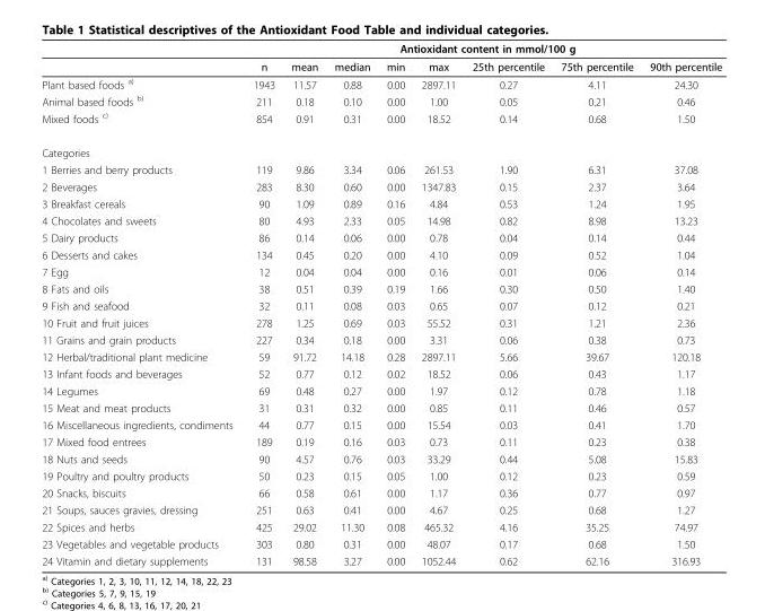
<table><thead><tr><td rowspan="2"></td><td colspan="8">Antioxidant content in mmol/100 g</td></tr><tr><td>n</td><td>mean</td><td>median</td><td>min</td><td>max</td><td>25th percentile</td><td>75th percentile</td><td>90th percentile</td></tr></thead><tbody><tr><td>Plant based foods <sup>a)</sup></td><td>1943</td><td>11.57</td><td>0.88</td><td>0.00</td><td>2897.11</td><td>0.27</td><td>4.11</td><td>24.30</td></tr><tr><td>Animal based foods <sup>b)</sup></td><td>211</td><td>0.18</td><td>0.10</td><td>0.00</td><td>1.00</td><td>0.05</td><td>0.21</td><td>0.46</td></tr><tr><td>Mixed foods <sup>c)</sup></td><td>854</td><td>0.91</td><td>0.31</td><td>0.00</td><td>18.52</td><td>0.14</td><td>0.68</td><td>1.50</td></tr><tr><td colspan="9">Categories</td></tr><tr><td>1 Berries and berry products</td><td>119</td><td>9.86</td><td>3.34</td><td>0.06</td><td>261.53</td><td>1.90</td><td>6.31</td><td>37.08</td></tr><tr><td>2 Beverages</td><td>283</td><td>8.30</td><td>0.60</td><td>0.00</td><td>1347.83</td><td>0.15</td><td>2.37</td><td>3.64</td></tr><tr><td>3 Breakfast cereals</td><td>90</td><td>1.09</td><td>0.89</td><td>0.16</td><td>4.84</td><td>0.53</td><td>1.24</td><td>1.95</td></tr><tr><td>4 Chocolates and sweets</td><td>80</td><td>4.93</td><td>2.33</td><td>0.05</td><td>14.98</td><td>0.82</td><td>8.98</td><td>13.23</td></tr><tr><td>5 Dairy products</td><td>86</td><td>0.14</td><td>0.06</td><td>0.00</td><td>0.78</td><td>0.04</td><td>0.14</td><td>0.44</td></tr><tr><td>6 Desserts and cakes</td><td>134</td><td>0.45</td><td>0.20</td><td>0.00</td><td>4.10</td><td>0.09</td><td>0.52</td><td>1.04</td></tr><tr><td>7 Egg</td><td>12</td><td>0.04</td><td>0.04</td><td>0.00</td><td>0.16</td><td>0.01</td><td>0.06</td><td>0.14</td></tr><tr><td>8 Fats and oils</td><td>38</td><td>0.51</td><td>0.39</td><td>0.19</td><td>1.66</td><td>0.30</td><td>0.50</td><td>1.40</td></tr><tr><td>9 Fish and seafood</td><td>32</td><td>0.11</td><td>0.08</td><td>0.03</td><td>0.65</td><td>0.07</td><td>0.12</td><td>0.21</td></tr><tr><td>10 Fruit and fruit juices</td><td>278</td><td>1.25</td><td>0.69</td><td>0.03</td><td>55.52</td><td>0.31</td><td>1.21</td><td>2.36</td></tr><tr><td>11 Grains and grain products</td><td>227</td><td>0.34</td><td>0.18</td><td>0.00</td><td>3.31</td><td>0.06</td><td>0.38</td><td>0.73</td></tr><tr><td>12 Herbal/traditional plant medicine</td><td>59</td><td>91.72</td><td>14.18</td><td>0.28</td><td>2897.11</td><td>5.66</td><td>39.67</td><td>120.18</td></tr><tr><td>13 Infant foods and beverages</td><td>52</td><td>0.77</td><td>0.12</td><td>0.02</td><td>18.52</td><td>0.06</td><td>0.43</td><td>1.17</td></tr><tr><td>14 Legumes</td><td>69</td><td>0.48</td><td>0.27</td><td>0.00</td><td>1.97</td><td>0.12</td><td>0.78</td><td>1.18</td></tr><tr><td>15 Meat and meat products</td><td>31</td><td>0.31</td><td>0.32</td><td>0.00</td><td>0.85</td><td>0.11</td><td>0.46</td><td>0.57</td></tr><tr><td>16 Miscellaneous ingredients, condiments</td><td>44</td><td>0.77</td><td>0.15</td><td>0.00</td><td>15.54</td><td>0.03</td><td>0.41</td><td>1.70</td></tr><tr><td>17 Mixed food entrees</td><td>189</td><td>0.19</td><td>0.16</td><td>0.03</td><td>0.73</td><td>0.11</td><td>0.23</td><td>0.38</td></tr><tr><td>18 Nuts and seeds</td><td>90</td><td>4.57</td><td>0.76</td><td>0.03</td><td>33.29</td><td>0.44</td><td>5.08</td><td>15.83</td></tr><tr><td>19 Poultry and poultry products</td><td>50</td><td>0.23</td><td>0.15</td><td>0.05</td><td>1.00</td><td>0.12</td><td>0.23</td><td>0.59</td></tr><tr><td>20 Snacks, biscuits</td><td>66</td><td>0.58</td><td>0.61</td><td>0.00</td><td>1.17</td><td>0.36</td><td>0.77</td><td>0.97</td></tr><tr><td>21 Soups, sauces gravies, dressing</td><td>251</td><td>0.63</td><td>0.41</td><td>0.00</td><td>4.67</td><td>0.25</td><td>0.68</td><td>1.27</td></tr><tr><td>22 Spices and herbs</td><td>425</td><td>29.02</td><td>11.30</td><td>0.08</td><td>465.32</td><td>4.16</td><td>35.25</td><td>74.97</td></tr><tr><td>23 Vegetables and vegetable products</td><td>303</td><td>0.80</td><td>0.31</td><td>0.00</td><td>48.07</td><td>0.17</td><td>0.68</td><td>1.50</td></tr><tr><td>24 Vitamin and dietary supplements</td><td>131</td><td>98.58</td><td>3.27</td><td>0.00</td><td>1052.44</td><td>0.62</td><td>62.16</td><td>316.93</td></tr></tbody></table>